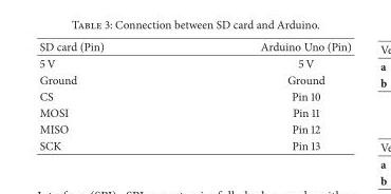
<table><thead><tr><td>SD card (Pin)</td><td>Arduino Uno (Pin)</td></tr></thead><tbody><tr><td>5 V</td><td>5 V</td></tr><tr><td>Ground</td><td>Ground</td></tr><tr><td>CS</td><td>Pin 10</td></tr><tr><td>MOSI</td><td>Pin 11</td></tr><tr><td>MISO</td><td>Pin 12</td></tr><tr><td>SCK</td><td>Pin 13</td></tr></tbody></table>